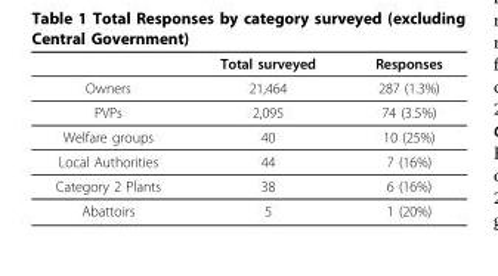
<table><thead><tr><td></td><td>Total surveyed</td><td>Responses</td></tr></thead><tbody><tr><td>Owners</td><td>21,464</td><td>287 (1.3%)</td></tr><tr><td>PVPs</td><td>2,095</td><td>74 (3.5%)</td></tr><tr><td>Welfare groups</td><td>40</td><td>10 (25%)</td></tr><tr><td>Local Authorities</td><td>44</td><td>7 (16%)</td></tr><tr><td>Category 2 Plants</td><td>38</td><td>6 (16%)</td></tr><tr><td>Abattoirs</td><td>5</td><td>1 (20%)</td></tr></tbody></table>